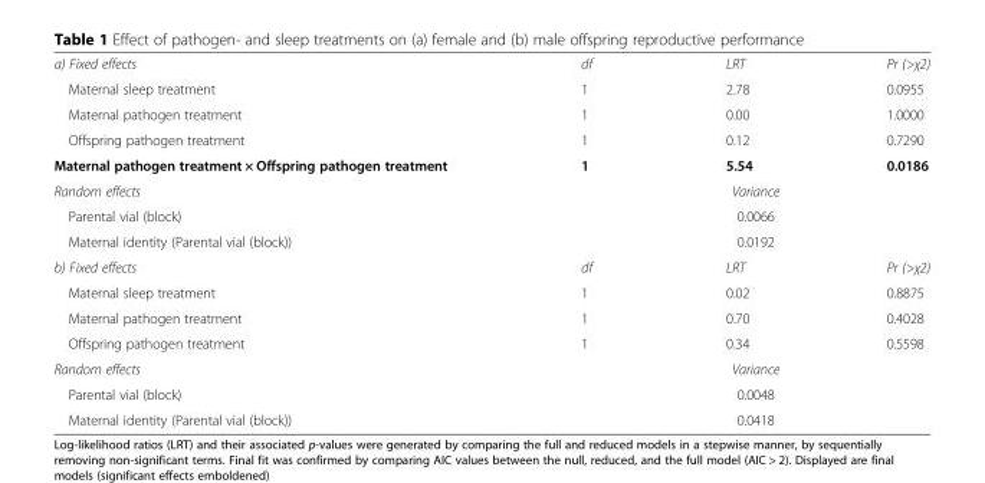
<table><tbody><tr><td>a) Fixed effects</td><td>df</td><td>LRT</td><td>Pr (&gt;χ2)</td></tr><tr><td>Maternal sleep treatment</td><td>1</td><td>2.78</td><td>0.0955</td></tr><tr><td>Maternal pathogen treatment</td><td>1</td><td>0.00</td><td>1.0000</td></tr><tr><td>Offspring pathogen treatment</td><td>1</td><td>0.12</td><td>0.7290</td></tr><tr><td>Maternal pathogen treatment × Offspring pathogen treatment</td><td>1</td><td>5.54</td><td>0.0186</td></tr><tr><td>Random effects</td><td colspan="3">Variance</td></tr><tr><td>Parental vial (block)</td><td colspan="3">0.0066</td></tr><tr><td>Maternal identity (Parental vial (block))</td><td colspan="3">0.0192</td></tr><tr><td>b) Fixed effects</td><td>df</td><td>LRT</td><td>Pr (&gt;χ2)</td></tr><tr><td>Maternal sleep treatment</td><td>1</td><td>0.02</td><td>0.8875</td></tr><tr><td>Maternal pathogen treatment</td><td>1</td><td>0.70</td><td>0.4028</td></tr><tr><td>Offspring pathogen treatment</td><td>1</td><td>0.34</td><td>0.5598</td></tr><tr><td>Random effects</td><td colspan="3">Variance</td></tr><tr><td>Parental vial (block)</td><td colspan="3">0.0048</td></tr><tr><td>Maternal identity (Parental vial (block))</td><td colspan="3">0.0418</td></tr></tbody></table>